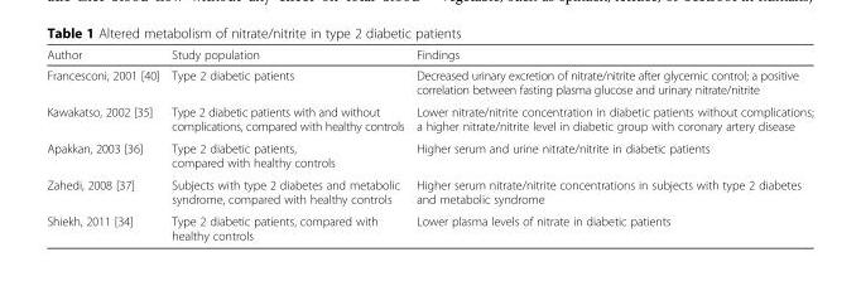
<table><thead><tr><td>Author</td><td>Study population</td><td>Findings</td></tr></thead><tbody><tr><td>Francesconi, 2001 [40]</td><td>Type 2 diabetic patients</td><td>Decreased urinary excretion of nitrate/nitrite after glycemic control; a positive correlation between fasting plasma glucose and urinary nitrate/nitrite</td></tr><tr><td>Kawakatso, 2002 [35]</td><td>Type 2 diabetic patients with and without complications, compared with healthy controls</td><td>Lower nitrate/nitrite concentration in diabetic patients without complications; a higher nitrate/nitrite level in diabetic group with coronary artery disease</td></tr><tr><td>Apakkan, 2003 [36]</td><td>Type 2 diabetic patients, compared with healthy controls</td><td>Higher serum and urine nitrate/nitrite in diabetic patients</td></tr><tr><td>Zahedi, 2008 [37]</td><td>Subjects with type 2 diabetes and metabolic syndrome, compared with healthy controls</td><td>Higher serum nitrate/nitrite concentrations in subjects with type 2 diabetes and metabolic syndrome</td></tr><tr><td>Shiekh, 2011 [34]</td><td>Type 2 diabetic patients, compared with healthy controls</td><td>Lower plasma levels of nitrate in diabetic patients</td></tr></tbody></table>